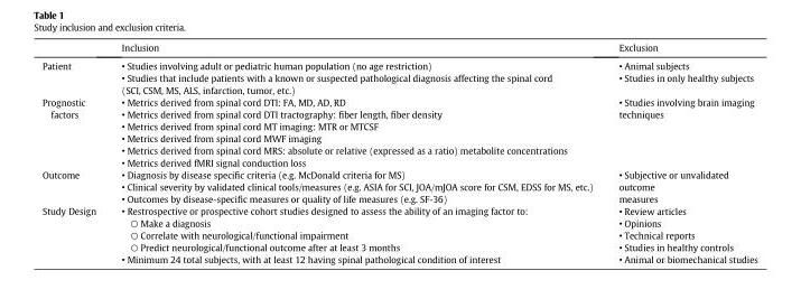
<table><thead><tr><td></td><td>Inclusion</td><td>Exclusion</td></tr></thead><tbody><tr><td>Patient</td><td>• Studies involving adult or pediatric human population (no age restriction) • Studies that include patients with a known or suspected pathological diagnosis affecting the spinal cord (SCI, CSM, MS, ALS, infarction, tumor, etc.)</td><td>• Animal subjects • Studies in only healthy subjects</td></tr><tr><td>Prognostic factors</td><td>• Metrics derived from spinal cord DTI: FA, MD, AD, RD • Metrics derived from spinal cord DTI tractography: fiber length, fiber density • Metrics derived from spinal cord MT imaging: MTR or MTCSF • Metrics derived from spinal cord MWF imaging • Metrics derived from spinal cord MRS: absolute or relative (expressed as a ratio) metabolite concentrations • Metrics derived fMRI signal conduction loss</td><td>• Studies involving brain imaging techniques</td></tr><tr><td>Outcome</td><td>• Diagnosis by disease specific criteria (e.g. McDonald criteria for MS) • Clinical severity by validated clinical tools/measures (e.g. ASIA for SCI, JOA/mJOA score for CSM, EDSS for MS, etc.) • Outcomes by disease-specific measures or quality of life measures (e.g. SF-36)</td><td>• Subjective or unvalidated outcome measures</td></tr><tr><td>Study Design</td><td>• Restrospective or prospective cohort studies designed to assess the ability of an imaging factor to: ○ Make a diagnosis ○ Correlate with neurological/functional impairment ○ Predict neurological/functional outcome after at least 3 months • Minimum 24 total subjects, with at least 12 having spinal pathological condition of interest</td><td>• Review articles • Opinions • Technical reports • Studies in healthy controls • Animal or biomechanical studies</td></tr></tbody></table>